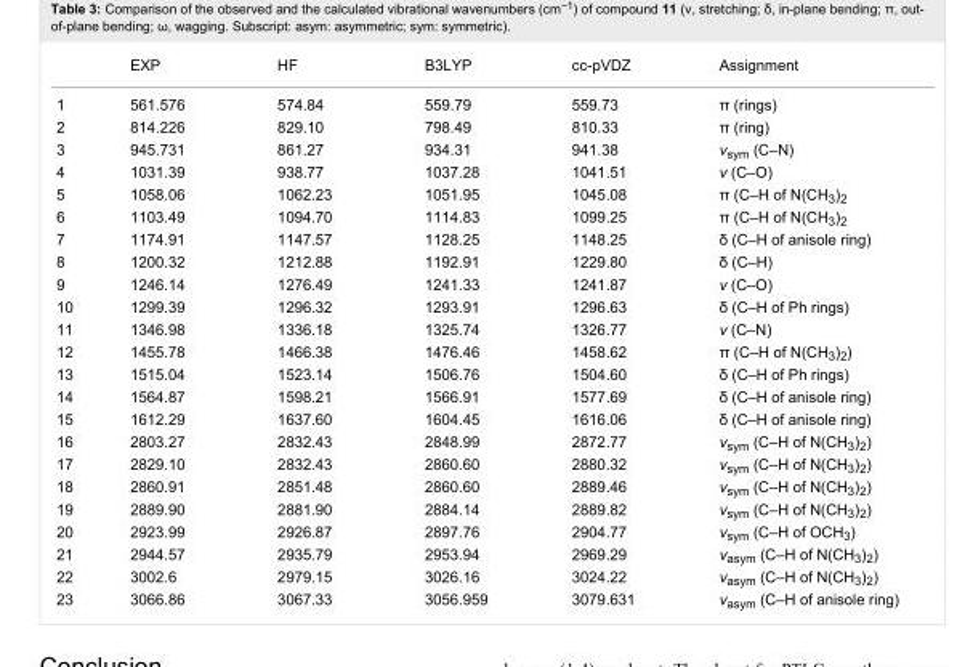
<table><thead><tr><td></td><td>EXP</td><td>HF</td><td>B3LYP</td><td>cc-pVDZ</td><td>Assignment</td></tr></thead><tbody><tr><td>1</td><td>561.576</td><td>574.84</td><td>559.79</td><td>559.73</td><td>π (rings)</td></tr><tr><td>2</td><td>814.226</td><td>829.10</td><td>798.49</td><td>810.33</td><td>π (ring)</td></tr><tr><td>3</td><td>945.731</td><td>861.27</td><td>934.31</td><td>941.38</td><td>ν<sub>sym</sub> (C–N)</td></tr><tr><td>4</td><td>1031.39</td><td>938.77</td><td>1037.28</td><td>1041.51</td><td>ν (C–O)</td></tr><tr><td>5</td><td>1058.06</td><td>1062.23</td><td>1051.95</td><td>1045.08</td><td>π (C–H of N(CH<sub>3</sub>)<sub>2</sub></td></tr><tr><td>6</td><td>1103.49</td><td>1094.70</td><td>1114.83</td><td>1099.25</td><td>π (C–H of N(CH<sub>3</sub>)<sub>2</sub></td></tr><tr><td>7</td><td>1174.91</td><td>1147.57</td><td>1128.25</td><td>1148.25</td><td>δ (C–H of anisole ring)</td></tr><tr><td>8</td><td>1200.32</td><td>1212.88</td><td>1192.91</td><td>1229.80</td><td>δ (C–H)</td></tr><tr><td>9</td><td>1246.14</td><td>1276.49</td><td>1241.33</td><td>1241.87</td><td>ν (C–O)</td></tr><tr><td>10</td><td>1299.39</td><td>1296.32</td><td>1293.91</td><td>1296.63</td><td>δ (C–H of Ph rings)</td></tr><tr><td>11</td><td>1346.98</td><td>1336.18</td><td>1325.74</td><td>1326.77</td><td>ν (C–N)</td></tr><tr><td>12</td><td>1455.78</td><td>1466.38</td><td>1476.46</td><td>1458.62</td><td>π (C–H of N(CH<sub>3</sub>)<sub>2</sub>)</td></tr><tr><td>13</td><td>1515.04</td><td>1523.14</td><td>1506.76</td><td>1504.60</td><td>δ (C–H of Ph rings)</td></tr><tr><td>14</td><td>1564.87</td><td>1598.21</td><td>1566.91</td><td>1577.69</td><td>δ (C–H of anisole ring)</td></tr><tr><td>15</td><td>1612.29</td><td>1637.60</td><td>1604.45</td><td>1616.06</td><td>δ (C–H of anisole ring)</td></tr><tr><td>16</td><td>2803.27</td><td>2832.43</td><td>2848.99</td><td>2872.77</td><td>ν<sub>sym</sub> (C–H of N(CH<sub>3</sub>)<sub>2</sub>)</td></tr><tr><td>17</td><td>2829.10</td><td>2832.43</td><td>2860.60</td><td>2880.32</td><td>ν<sub>sym</sub> (C–H of N(CH<sub>3</sub>)<sub>2</sub>)</td></tr><tr><td>18</td><td>2860.91</td><td>2851.48</td><td>2860.60</td><td>2889.46</td><td>ν<sub>sym</sub> (C–H of N(CH<sub>3</sub>)<sub>2</sub>)</td></tr><tr><td>19</td><td>2889.90</td><td>2881.90</td><td>2884.14</td><td>2889.82</td><td>ν<sub>sym</sub> (C–H of N(CH<sub>3</sub>)<sub>2</sub>)</td></tr><tr><td>20</td><td>2923.99</td><td>2926.87</td><td>2897.76</td><td>2904.77</td><td>ν<sub>sym</sub> (C–H of OCH<sub>3</sub>)</td></tr><tr><td>21</td><td>2944.57</td><td>2935.79</td><td>2953.94</td><td>2969.29</td><td>ν<sub>asym</sub> (C–H of N(CH<sub>3</sub>)<sub>2</sub>)</td></tr><tr><td>22</td><td>3002.6</td><td>2979.15</td><td>3026.16</td><td>3024.22</td><td>ν<sub>asym</sub> (C–H of N(CH<sub>3</sub>)<sub>2</sub>)</td></tr><tr><td>23</td><td>3066.86</td><td>3067.33</td><td>3056.959</td><td>3079.631</td><td>ν<sub>asym</sub> (C–H of anisole ring)</td></tr></tbody></table>